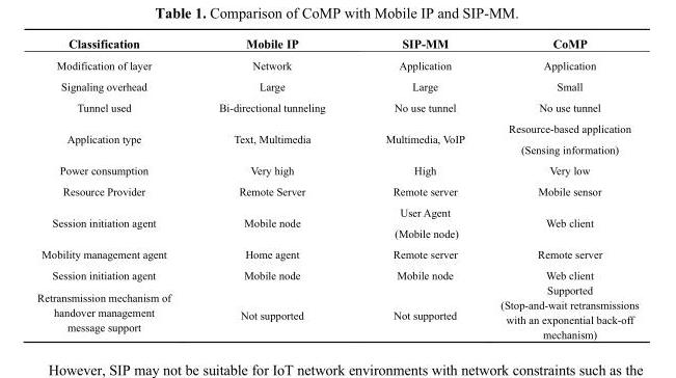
<table><thead><tr><td>Classification</td><td>Mobile IP</td><td>SIP-MM</td><td>CoMP</td></tr></thead><tbody><tr><td>Modification of layer</td><td>Network</td><td>Application</td><td>Application</td></tr><tr><td>Signaling overhead</td><td>Large</td><td>Large</td><td>Small</td></tr><tr><td>Tunnel used</td><td>Bi-directional tunneling</td><td>No use tunnel</td><td>No use tunnel</td></tr><tr><td>Application type</td><td>Text, Multimedia</td><td>Multimedia, VoIP</td><td>Resource-based application (Sensing information)</td></tr><tr><td>Power consumption</td><td>Very high</td><td>High</td><td>Very low</td></tr><tr><td>Resource Provider</td><td>Remote Server</td><td>Remote server</td><td>Mobile sensor</td></tr><tr><td>Session initiation agent</td><td>Mobile node</td><td>User Agent (Mobile node)</td><td>Web client</td></tr><tr><td>Mobility management agent</td><td>Home agent</td><td>Remote server</td><td>Remote server</td></tr><tr><td>Session initiation agent</td><td>Mobile node</td><td>Mobile node</td><td>Web client</td></tr><tr><td>Retransmission mechanism of handover management message support</td><td>Not supported</td><td>Not supported</td><td>Supported (Stop-and-wait retransmissions with an exponential back-off mechanism)</td></tr></tbody></table>